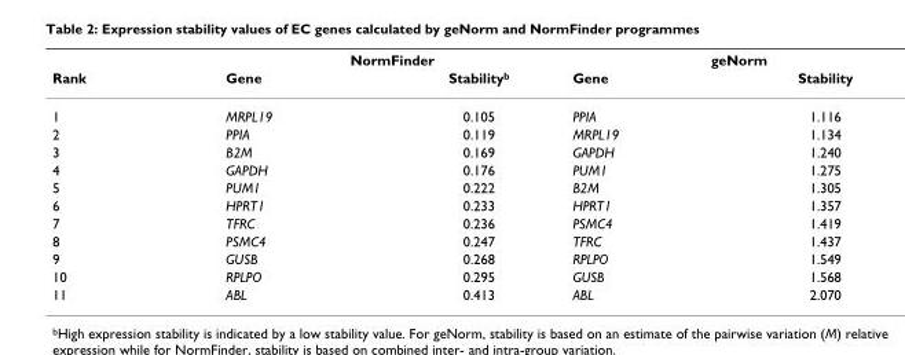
<table><thead><tr><td rowspan="2">Rank</td><td colspan="2">NormFinder</td><td colspan="2">geNorm</td></tr><tr><td>Gene</td><td>Stability<sup>b</sup></td><td>Gene</td><td>Stability</td></tr></thead><tbody><tr><td>1</td><td>MRPL19</td><td>0.105</td><td>PPIA</td><td>1.116</td></tr><tr><td>2</td><td>PPIA</td><td>0.119</td><td>MRPL19</td><td>1.134</td></tr><tr><td>3</td><td>B2M</td><td>0.169</td><td>GAPDH</td><td>1.240</td></tr><tr><td>4</td><td>GAPDH</td><td>0.176</td><td>PUM1</td><td>1.275</td></tr><tr><td>5</td><td>PUM1</td><td>0.222</td><td>B2M</td><td>1.305</td></tr><tr><td>6</td><td>HPRT1</td><td>0.233</td><td>HPRT1</td><td>1.357</td></tr><tr><td>7</td><td>TFRC</td><td>0.236</td><td>PSMC4</td><td>1.419</td></tr><tr><td>8</td><td>PSMC4</td><td>0.247</td><td>TFRC</td><td>1.437</td></tr><tr><td>9</td><td>GUSB</td><td>0.268</td><td>RPLPO</td><td>1.549</td></tr><tr><td>10</td><td>RPLPO</td><td>0.295</td><td>GUSB</td><td>1.568</td></tr><tr><td>11</td><td>ABL</td><td>0.413</td><td>ABL</td><td>2.070</td></tr></tbody></table>